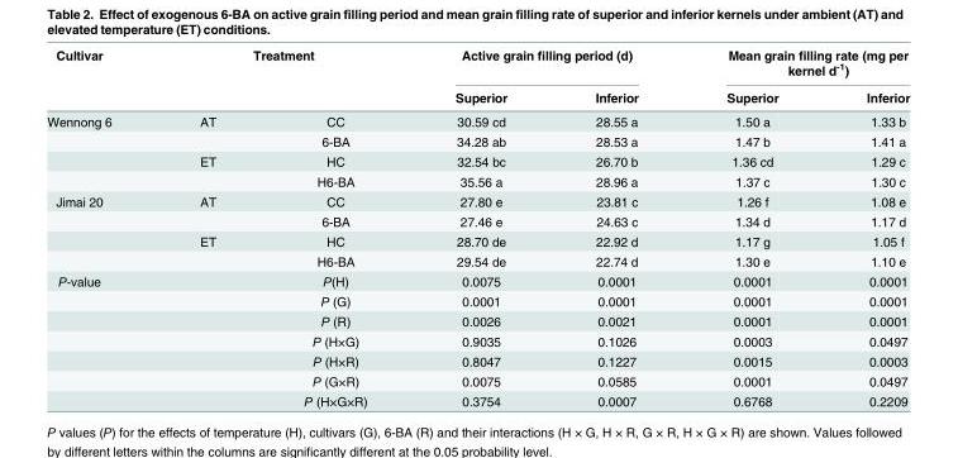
<table><thead><tr><td rowspan="2">Cultivar</td><td colspan="2">Treatment</td><td colspan="2">Active grain filling period (d)</td><td colspan="2">Mean grain filling rate (mg per kernel d<sup>-1</sup>)</td></tr><tr><td></td><td></td><td>Superior</td><td>Inferior</td><td>Superior</td><td>Inferior</td></tr></thead><tbody><tr><td rowspan="4">Wennong 6</td><td>AT</td><td>CC</td><td>30.59 cd</td><td>28.55 a</td><td>1.50 a</td><td>1.33 b</td></tr><tr><td></td><td>6-BA</td><td>34.28 ab</td><td>28.53 a</td><td>1.47 b</td><td>1.41 a</td></tr><tr><td>ET</td><td>HC</td><td>32.54 bc</td><td>26.70 b</td><td>1.36 cd</td><td>1.29 c</td></tr><tr><td></td><td>H6-BA</td><td>35.56 a</td><td>28.96 a</td><td>1.37 c</td><td>1.30 c</td></tr><tr><td rowspan="4">Jimai 20</td><td>AT</td><td>CC</td><td>27.80 e</td><td>23.81 c</td><td>1.26 f</td><td>1.08 e</td></tr><tr><td></td><td>6-BA</td><td>27.46 e</td><td>24.63 c</td><td>1.34 d</td><td>1.17 d</td></tr><tr><td>ET</td><td>HC</td><td>28.70 de</td><td>22.92 d</td><td>1.17 g</td><td>1.05 f</td></tr><tr><td></td><td>H6-BA</td><td>29.54 de</td><td>22.74 d</td><td>1.30 e</td><td>1.10 e</td></tr><tr><td rowspan="7">P-value</td><td></td><td>P(H)</td><td>0.0075</td><td>0.0001</td><td>0.0001</td><td>0.0001</td></tr><tr><td></td><td>P (G)</td><td>0.0001</td><td>0.0001</td><td>0.0001</td><td>0.0001</td></tr><tr><td></td><td>P (R)</td><td>0.0026</td><td>0.0021</td><td>0.0001</td><td>0.0001</td></tr><tr><td></td><td>P (H×G)</td><td>0.9035</td><td>0.1026</td><td>0.0003</td><td>0.0497</td></tr><tr><td></td><td>P (H×R)</td><td>0.8047</td><td>0.1227</td><td>0.0015</td><td>0.0003</td></tr><tr><td></td><td>P (G×R)</td><td>0.0075</td><td>0.0585</td><td>0.0001</td><td>0.0497</td></tr><tr><td></td><td>P (H×G×R)</td><td>0.3754</td><td>0.0007</td><td>0.6768</td><td>0.2209</td></tr></tbody></table>